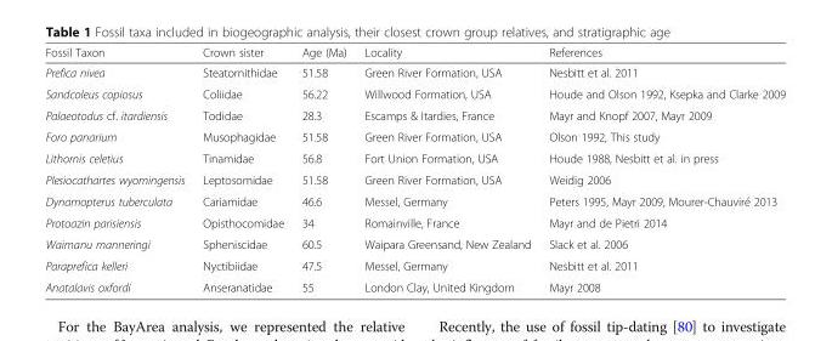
<table><thead><tr><td>Fossil Taxon</td><td>Crown sister</td><td>Age (Ma)</td><td>Locality</td><td>References</td></tr></thead><tbody><tr><td>Prefica nivea</td><td>Steatornithidae</td><td>51.58</td><td>Green River Formation, USA</td><td>Nesbitt et al. 2011</td></tr><tr><td>Sandcoleus copiosus</td><td>Coliidae</td><td>56.22</td><td>Willwood Formation, USA</td><td>Houde and Olson 1992, Ksepka and Clarke 2009</td></tr><tr><td>Palaeotodus cf. itardiensis</td><td>Todidae</td><td>28.3</td><td>Escamps &amp; Itardies, France</td><td>Mayr and Knopf 2007, Mayr 2009</td></tr><tr><td>Foro panarium</td><td>Musophagidae</td><td>51.58</td><td>Green River Formation, USA</td><td>Olson 1992, This study</td></tr><tr><td>Lithornis celetius</td><td>Tinamidae</td><td>56.8</td><td>Fort Union Formation, USA</td><td>Houde 1988, Nesbitt et al. in press</td></tr><tr><td>Plesiocathartes wyomingensis</td><td>Leptosomidae</td><td>51.58</td><td>Green River Formation, USA</td><td>Weidig 2006</td></tr><tr><td>Dynamopterus tuberculata</td><td>Cariamidae</td><td>46.6</td><td>Messel, Germany</td><td>Peters 1995, Mayr 2009, Mourer-Chauviré 2013</td></tr><tr><td>Protoazin parisiensis</td><td>Opisthocomidae</td><td>34</td><td>Romainville, France</td><td>Mayr and de Pietri 2014</td></tr><tr><td>Waimanu manneringi</td><td>Spheniscidae</td><td>60.5</td><td>Waipara Greensand, New Zealand</td><td>Slack et al. 2006</td></tr><tr><td>Paraprefica kelleri</td><td>Nyctibiidae</td><td>47.5</td><td>Messel, Germany</td><td>Nesbitt et al. 2011</td></tr><tr><td>Anatalavis oxfordi</td><td>Anseranatidae</td><td>55</td><td>London Clay, United Kingdom</td><td>Mayr 2008</td></tr></tbody></table>